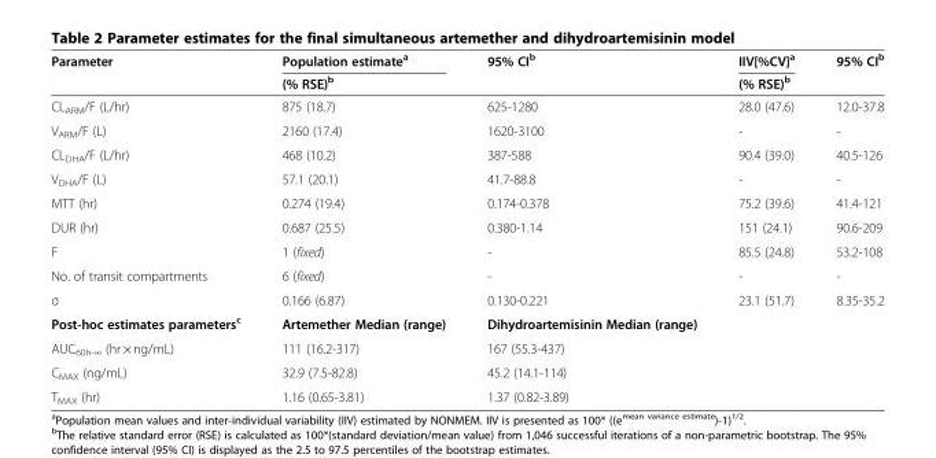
<table><thead><tr><td rowspan="2">Parameter</td><td rowspan="2">Population estimate<sup>a</sup> (% RSE)<sup>b</sup></td><td rowspan="2">95% CI<sup>b</sup></td><td rowspan="2">IIV[%CV]<sup>a</sup> (% RSE)<sup>b</sup></td><td rowspan="2">95% CI<sup>b</sup></td></tr><tr></tr></thead><tbody><tr><td>CL<sub>ARM</sub>/F (L/hr)</td><td>875 (18.7)</td><td>625-1280</td><td>28.0 (47.6)</td><td>12.0-37.8</td></tr><tr><td>V<sub>ARM</sub>/F (L)</td><td>2160 (17.4)</td><td>1620-3100</td><td>-</td><td>-</td></tr><tr><td>CL<sub>DHA</sub>/F (L/hr)</td><td>468 (10.2)</td><td>387-588</td><td>90.4 (39.0)</td><td>40.5-126</td></tr><tr><td>V<sub>DHA</sub>/F (L)</td><td>57.1 (20.1)</td><td>41.7-88.8</td><td>-</td><td>-</td></tr><tr><td>MTT (hr)</td><td>0.274 (19.4)</td><td>0.174-0.378</td><td>75.2 (39.6)</td><td>41.4-121</td></tr><tr><td>DUR (hr)</td><td>0.687 (25.5)</td><td>0.380-1.14</td><td>151 (24.1)</td><td>90.6-209</td></tr><tr><td>F</td><td>1 (fixed)</td><td>-</td><td>85.5 (24.8)</td><td>53.2-108</td></tr><tr><td>No. of transit compartments</td><td>6 (fixed)</td><td>-</td><td>-</td><td>-</td></tr><tr><td>σ</td><td>0.166 (6.87)</td><td>0.130-0.221</td><td>23.1 (51.7)</td><td>8.35-35.2</td></tr><tr><td>Post-hoc estimates parameters<sup>c</sup></td><td>Artemether Median (range)</td><td>Dihydroartemisinin Median (range)</td><td></td><td></td></tr><tr><td>AUC<sub>60h-∞</sub> (hr × ng/mL)</td><td>111 (16.2-317)</td><td>167 (55.3-437)</td><td></td><td></td></tr><tr><td>C<sub>MAX</sub> (ng/mL)</td><td>32.9 (7.5-82.8)</td><td>45.2 (14.1-114)</td><td></td><td></td></tr><tr><td>T<sub>MAX</sub> (hr)</td><td>1.16 (0.65-3.81)</td><td>1.37 (0.82-3.89)</td><td></td><td></td></tr></tbody></table>